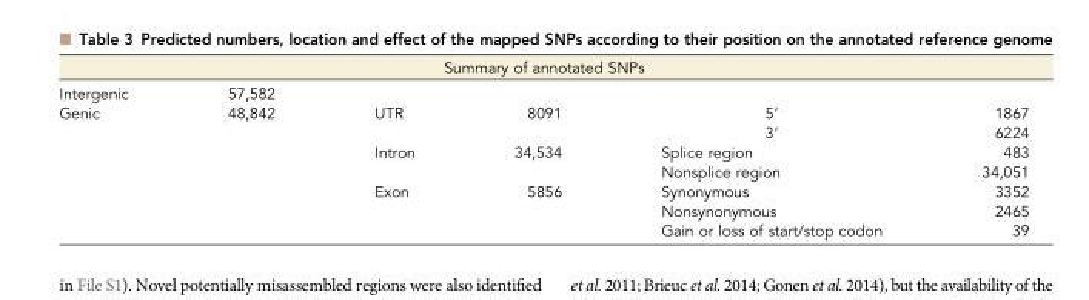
<table><thead><tr><td colspan="6">Summary of annotated SNPs</td></tr><tr><td>Intergenic</td><td>57,582</td><td></td><td></td><td></td><td></td></tr></thead><tbody><tr><td rowspan="7">Genic</td><td rowspan="7">48,842</td><td rowspan="2">UTR</td><td>8091</td><td>5′</td><td>1867</td></tr><tr><td></td><td>3′</td><td>6224</td></tr><tr><td rowspan="2">Intron</td><td rowspan="2">34,534</td><td>Splice region</td><td>483</td></tr><tr><td>Nonsplice region</td><td>34,051</td></tr><tr><td rowspan="3">Exon</td><td rowspan="3">5856</td><td>Synonymous</td><td>3352</td></tr><tr><td>Nonsynonymous</td><td>2465</td></tr><tr><td>Gain or loss of start/stop codon</td><td>39</td></tr></tbody></table>